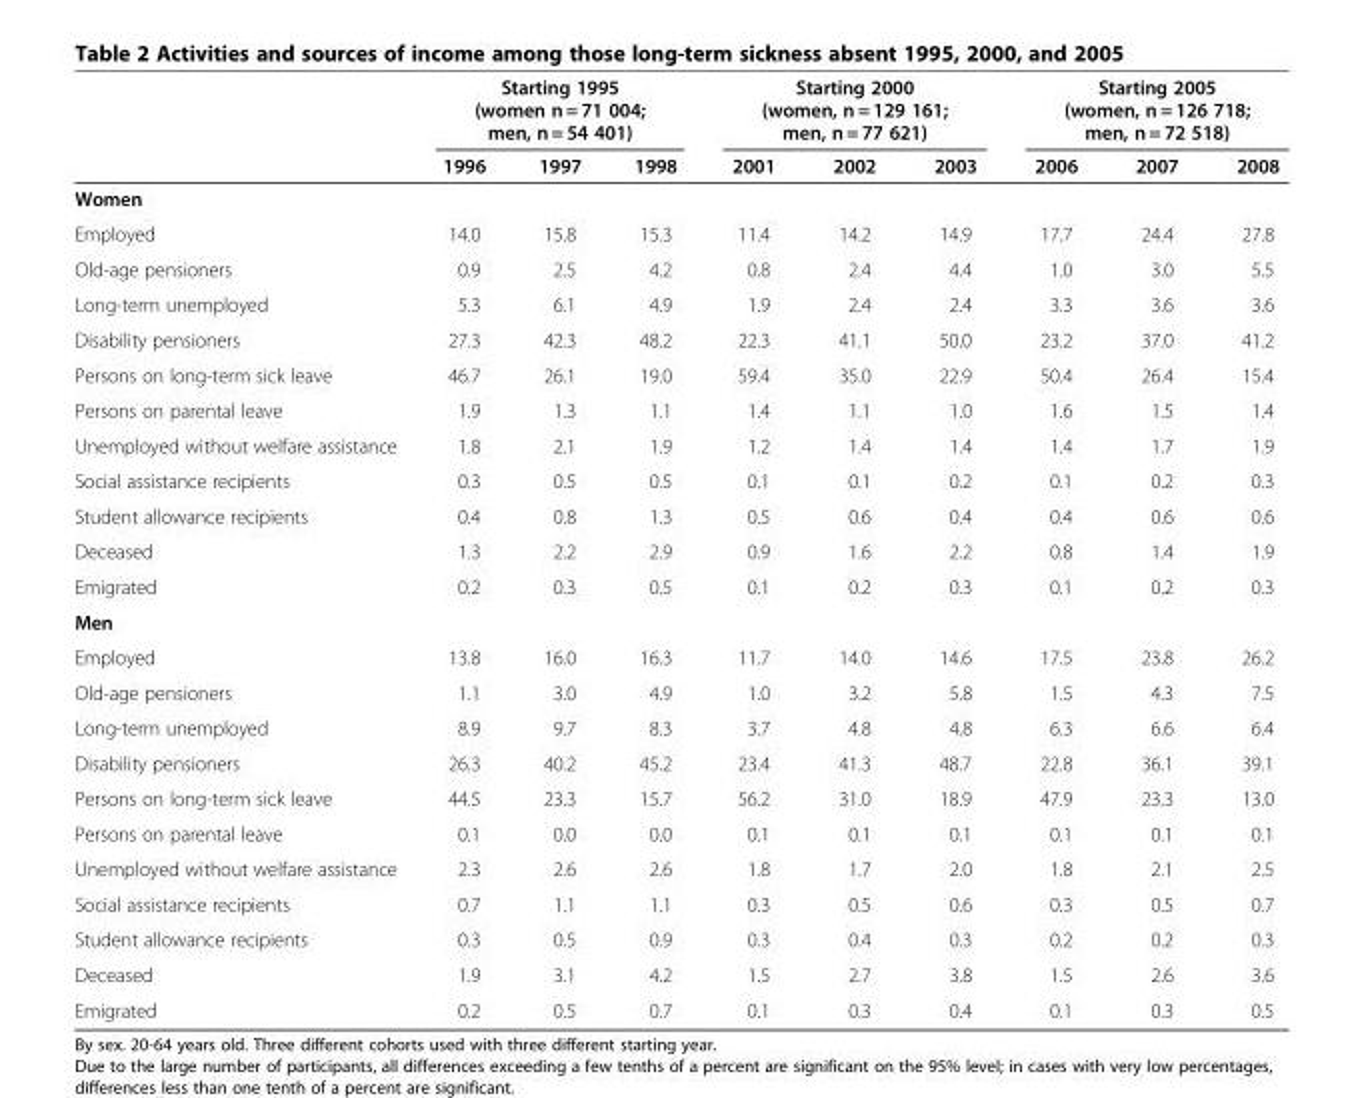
<table><thead><tr><td rowspan="2"></td><td colspan="3">Starting 1995 (women n = 71 004; men, n = 54 401)</td><td colspan="3">Starting 2000 (women, n = 129 161; men, n = 77 621)</td><td colspan="3">Starting 2005 (women, n = 126 718; men, n = 72 518)</td></tr><tr><td>1996</td><td>1997</td><td>1998</td><td>2001</td><td>2002</td><td>2003</td><td>2006</td><td>2007</td><td>2008</td></tr></thead><tbody><tr><td colspan="10">Women</td></tr><tr><td>Employed</td><td>14.0</td><td>15.8</td><td>15.3</td><td>11.4</td><td>14.2</td><td>14.9</td><td>17.7</td><td>24.4</td><td>27.8</td></tr><tr><td>Old-age pensioners</td><td>0.9</td><td>2.5</td><td>4.2</td><td>0.8</td><td>2.4</td><td>4.4</td><td>1.0</td><td>3.0</td><td>5.5</td></tr><tr><td>Long-term unemployed</td><td>5.3</td><td>6.1</td><td>4.9</td><td>1.9</td><td>2.4</td><td>2.4</td><td>3.3</td><td>3.6</td><td>3.6</td></tr><tr><td>Disability pensioners</td><td>27.3</td><td>42.3</td><td>48.2</td><td>22.3</td><td>41.1</td><td>50.0</td><td>23.2</td><td>37.0</td><td>41.2</td></tr><tr><td>Persons on long-term sick leave</td><td>46.7</td><td>26.1</td><td>19.0</td><td>59.4</td><td>35.0</td><td>22.9</td><td>50.4</td><td>26.4</td><td>15.4</td></tr><tr><td>Persons on parental leave</td><td>1.9</td><td>1.3</td><td>1.1</td><td>1.4</td><td>1.1</td><td>1.0</td><td>1.6</td><td>1.5</td><td>1.4</td></tr><tr><td>Unemployed without welfare assistance</td><td>1.8</td><td>2.1</td><td>1.9</td><td>1.2</td><td>1.4</td><td>1.4</td><td>1.4</td><td>1.7</td><td>1.9</td></tr><tr><td>Social assistance recipients</td><td>0.3</td><td>0.5</td><td>0.5</td><td>0.1</td><td>0.1</td><td>0.2</td><td>0.1</td><td>0.2</td><td>0.3</td></tr><tr><td>Student allowance recipients</td><td>0.4</td><td>0.8</td><td>1.3</td><td>0.5</td><td>0.6</td><td>0.4</td><td>0.4</td><td>0.6</td><td>0.6</td></tr><tr><td>Deceased</td><td>1.3</td><td>2.2</td><td>2.9</td><td>0.9</td><td>1.6</td><td>2.2</td><td>0.8</td><td>1.4</td><td>1.9</td></tr><tr><td>Emigrated</td><td>0.2</td><td>0.3</td><td>0.5</td><td>0.1</td><td>0.2</td><td>0.3</td><td>0.1</td><td>0.2</td><td>0.3</td></tr><tr><td colspan="10">Men</td></tr><tr><td>Employed</td><td>13.8</td><td>16.0</td><td>16.3</td><td>11.7</td><td>14.0</td><td>14.6</td><td>17.5</td><td>23.8</td><td>26.2</td></tr><tr><td>Old-age pensioners</td><td>1.1</td><td>3.0</td><td>4.9</td><td>1.0</td><td>3.2</td><td>5.8</td><td>1.5</td><td>4.3</td><td>7.5</td></tr><tr><td>Long-term unemployed</td><td>8.9</td><td>9.7</td><td>8.3</td><td>3.7</td><td>4.8</td><td>4.8</td><td>6.3</td><td>6.6</td><td>6.4</td></tr><tr><td>Disability pensioners</td><td>26.3</td><td>40.2</td><td>45.2</td><td>23.4</td><td>41.3</td><td>48.7</td><td>22.8</td><td>36.1</td><td>39.1</td></tr><tr><td>Persons on long-term sick leave</td><td>44.5</td><td>23.3</td><td>15.7</td><td>56.2</td><td>31.0</td><td>18.9</td><td>47.9</td><td>23.3</td><td>13.0</td></tr><tr><td>Persons on parental leave</td><td>0.1</td><td>0.0</td><td>0.0</td><td>0.1</td><td>0.1</td><td>0.1</td><td>0.1</td><td>0.1</td><td>0.1</td></tr><tr><td>Unemployed without welfare assistance</td><td>2.3</td><td>2.6</td><td>2.6</td><td>1.8</td><td>1.7</td><td>2.0</td><td>1.8</td><td>2.1</td><td>2.5</td></tr><tr><td>Social assistance recipients</td><td>0.7</td><td>1.1</td><td>1.1</td><td>0.3</td><td>0.5</td><td>0.6</td><td>0.3</td><td>0.5</td><td>0.7</td></tr><tr><td>Student allowance recipients</td><td>0.3</td><td>0.5</td><td>0.9</td><td>0.3</td><td>0.4</td><td>0.3</td><td>0.2</td><td>0.2</td><td>0.3</td></tr><tr><td>Deceased</td><td>1.9</td><td>3.1</td><td>4.2</td><td>1.5</td><td>2.7</td><td>3.8</td><td>1.5</td><td>2.6</td><td>3.6</td></tr><tr><td>Emigrated</td><td>0.2</td><td>0.5</td><td>0.7</td><td>0.1</td><td>0.3</td><td>0.4</td><td>0.1</td><td>0.3</td><td>0.5</td></tr></tbody></table>